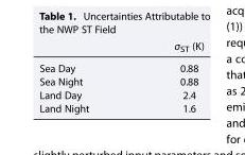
<table><thead><tr><td></td><td>σ<sub>ST</sub> (K)</td></tr></thead><tbody><tr><td>Sea Day</td><td>0.88</td></tr><tr><td>Sea Night</td><td>0.88</td></tr><tr><td>Land Day</td><td>2.4</td></tr><tr><td>Land Night</td><td>1.6</td></tr></tbody></table>